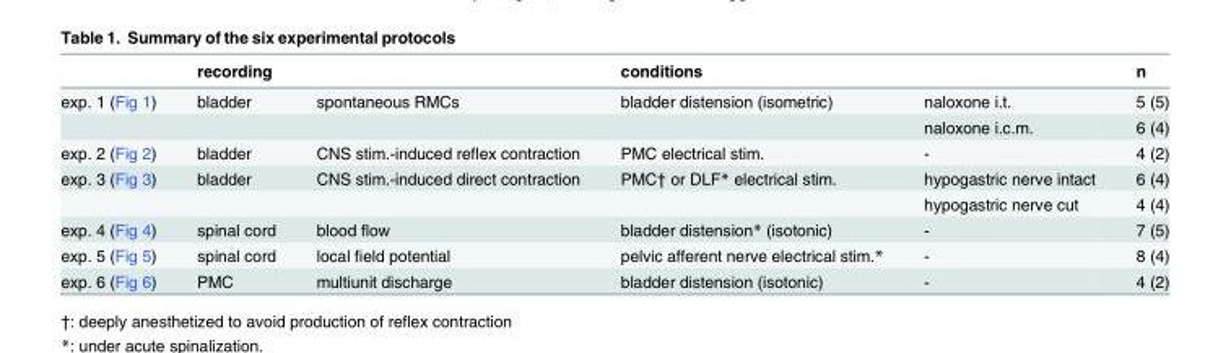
<table><thead><tr><td></td><td>recording</td><td></td><td>conditions</td><td></td><td>n</td></tr></thead><tbody><tr><td rowspan="2">exp. 1 (Fig 1)</td><td>bladder</td><td>spontaneous RMCs</td><td>bladder distension (isometric)</td><td>naloxone i.t.</td><td>5 (5)</td></tr><tr><td></td><td></td><td></td><td>naloxone i.c.m.</td><td>6 (4)</td></tr><tr><td>exp. 2 (Fig 2)</td><td>bladder</td><td>CNS stim.-induced reflex contraction</td><td>PMC electrical stim.</td><td>-</td><td>4 (2)</td></tr><tr><td rowspan="2">exp. 3 (Fig 3)</td><td>bladder</td><td>CNS stim.-induced direct contraction</td><td>PMC† or DLF* electrical stim.</td><td>hypogastric nerve intact</td><td>6 (4)</td></tr><tr><td></td><td></td><td></td><td>hypogastric nerve cut</td><td>4 (4)</td></tr><tr><td>exp. 4 (Fig 4)</td><td>spinal cord</td><td>blood flow</td><td>bladder distension* (isotonic)</td><td>-</td><td>7 (5)</td></tr><tr><td>exp. 5 (Fig 5)</td><td>spinal cord</td><td>local field potential</td><td>pelvic afferent nerve electrical stim.*</td><td>-</td><td>8 (4)</td></tr><tr><td>exp. 6 (Fig 6)</td><td>PMC</td><td>multiunit discharge</td><td>bladder distension (isotonic)</td><td>-</td><td>4 (2)</td></tr></tbody></table>